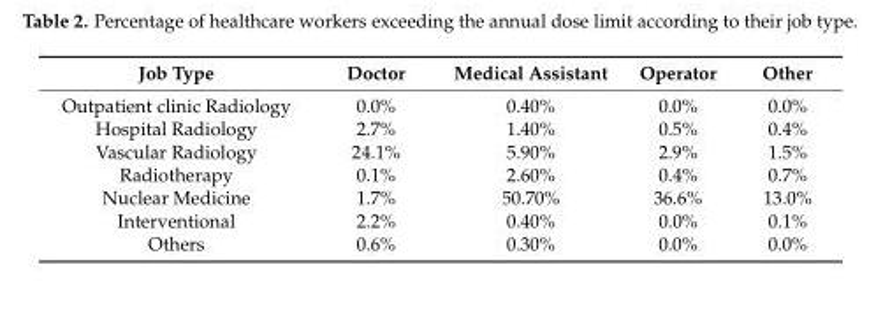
<table><thead><tr><td>Job Type</td><td>Doctor</td><td>Medical Assistant</td><td>Operator</td><td>Other</td></tr></thead><tbody><tr><td>Outpatient clinic Radiology</td><td>0.0%</td><td>0.40%</td><td>0.0%</td><td>0.0%</td></tr><tr><td>Hospital Radiology</td><td>2.7%</td><td>1.40%</td><td>0.5%</td><td>0.4%</td></tr><tr><td>Vascular Radiology</td><td>24.1%</td><td>5.90%</td><td>2.9%</td><td>1.5%</td></tr><tr><td>Radiotherapy</td><td>0.1%</td><td>2.60%</td><td>0.4%</td><td>0.7%</td></tr><tr><td>Nuclear Medicine</td><td>1.7%</td><td>50.70%</td><td>36.6%</td><td>13.0%</td></tr><tr><td>Interventional</td><td>2.2%</td><td>0.40%</td><td>0.0%</td><td>0.1%</td></tr><tr><td>Others</td><td>0.6%</td><td>0.30%</td><td>0.0%</td><td>0.0%</td></tr></tbody></table>